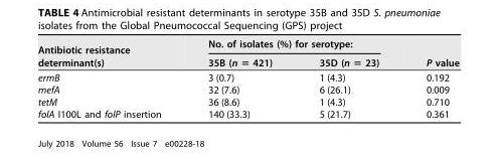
<table><thead><tr><td rowspan="2">Antibiotic resistance determinant(s)</td><td colspan="2">No. of isolates (%) for serotype:</td><td rowspan="2">P value</td></tr><tr><td>35B (n = 421)</td><td>35D (n = 23)</td></tr></thead><tbody><tr><td>ermB</td><td>3 (0.7)</td><td>1 (4.3)</td><td>0.192</td></tr><tr><td>mefA</td><td>32 (7.6)</td><td>6 (26.1)</td><td>0.009</td></tr><tr><td>tetM</td><td>36 (8.6)</td><td>1 (4.3)</td><td>0.710</td></tr><tr><td>folA I100L and folP insertion</td><td>140 (33.3)</td><td>5 (21.7)</td><td>0.361</td></tr></tbody></table>